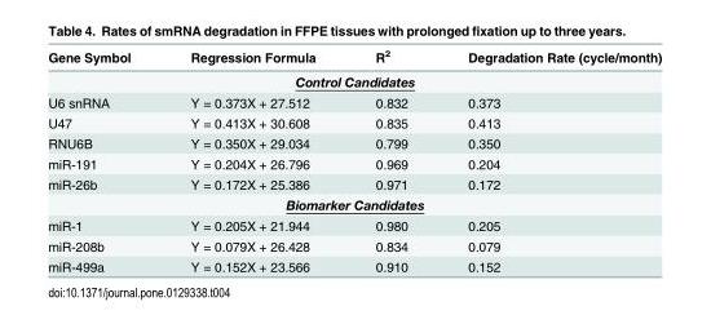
<table><thead><tr><td>Gene Symbol</td><td>Regression Formula</td><td>R<sup>2</sup></td><td>Degradation Rate (cycle/month)</td></tr></thead><tbody><tr><td colspan="4">Control Candidates</td></tr><tr><td>U6 snRNA</td><td>Y = 0.373X + 27.512</td><td>0.832</td><td>0.373</td></tr><tr><td>U47</td><td>Y = 0.413X + 30.608</td><td>0.835</td><td>0.413</td></tr><tr><td>RNU6B</td><td>Y = 0.350X + 29.034</td><td>0.799</td><td>0.350</td></tr><tr><td>miR-191</td><td>Y = 0.204X + 26.796</td><td>0.969</td><td>0.204</td></tr><tr><td>miR-26b</td><td>Y = 0.172X + 25.386</td><td>0.971</td><td>0.172</td></tr><tr><td colspan="4">Biomarker Candidates</td></tr><tr><td>miR-1</td><td>Y = 0.205X + 21.944</td><td>0.980</td><td>0.205</td></tr><tr><td>miR-208b</td><td>Y = 0.079X + 26.428</td><td>0.834</td><td>0.079</td></tr><tr><td>miR-499a</td><td>Y = 0.152X + 23.566</td><td>0.910</td><td>0.152</td></tr></tbody></table>